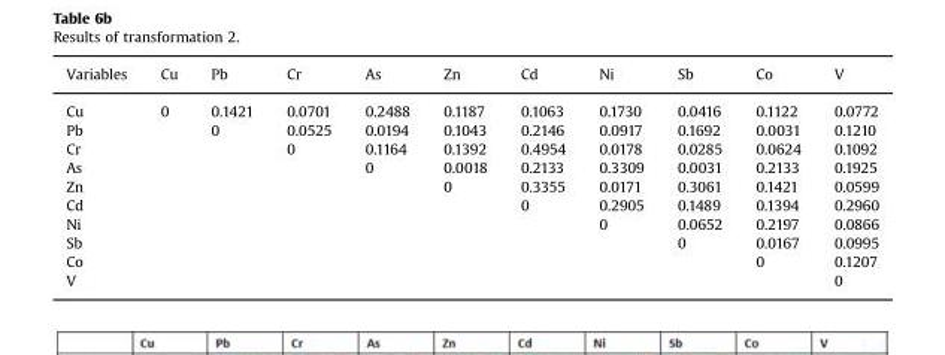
<table><thead><tr><td>Variables</td><td>Cu</td><td>Pb</td><td>Cr</td><td>As</td><td>Zn</td><td>Cd</td><td>Ni</td><td>Sb</td><td>Co</td><td>V</td></tr></thead><tbody><tr><td>Cu</td><td>0</td><td>0.1421</td><td>0.0701</td><td>0.2488</td><td>0.1187</td><td>0.1063</td><td>0.1730</td><td>0.0416</td><td>0.1122</td><td>0.0772</td></tr><tr><td>Pb</td><td></td><td>0</td><td>0.0525</td><td>0.0194</td><td>0.1043</td><td>0.2146</td><td>0.0917</td><td>0.1692</td><td>0.0031</td><td>0.1210</td></tr><tr><td>Cr</td><td></td><td></td><td>0</td><td>0.1164</td><td>0.1392</td><td>0.4954</td><td>0.0178</td><td>0.0285</td><td>0.0624</td><td>0.1092</td></tr><tr><td>As</td><td></td><td></td><td></td><td>0</td><td>0.0018</td><td>0.2133</td><td>0.3309</td><td>0.0031</td><td>0.2133</td><td>0.1925</td></tr><tr><td>Zn</td><td></td><td></td><td></td><td></td><td>0</td><td>0.3355</td><td>0.0171</td><td>0.3061</td><td>0.1421</td><td>0.0599</td></tr><tr><td>Cd</td><td></td><td></td><td></td><td></td><td></td><td>0</td><td>0.2905</td><td>0.1489</td><td>0.1394</td><td>0.2960</td></tr><tr><td>Ni</td><td></td><td></td><td></td><td></td><td></td><td></td><td>0</td><td>0.0652</td><td>0.2197</td><td>0.0866</td></tr><tr><td>Sb</td><td></td><td></td><td></td><td></td><td></td><td></td><td></td><td>0</td><td>0.0167</td><td>0.0995</td></tr><tr><td>Co</td><td></td><td></td><td></td><td></td><td></td><td></td><td></td><td></td><td>0</td><td>0.1207</td></tr><tr><td>V</td><td></td><td></td><td></td><td></td><td></td><td></td><td></td><td></td><td></td><td>0</td></tr></tbody></table>